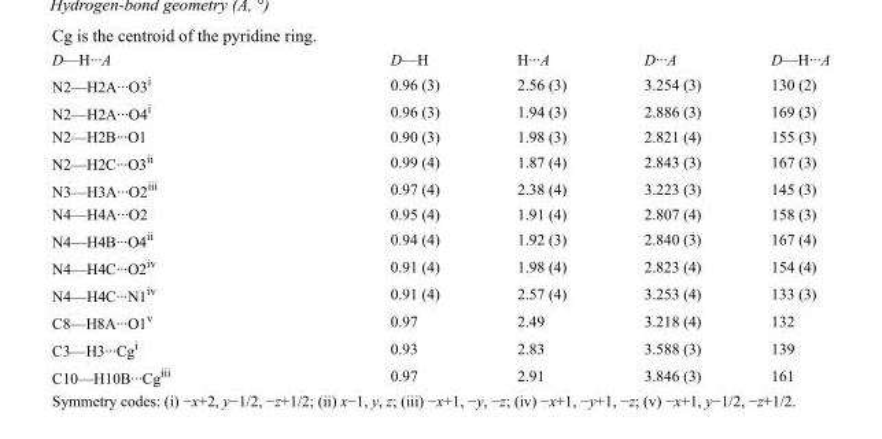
<table><tbody><tr><td>D—H···A</td><td>D—H</td><td>H···A</td><td>D···A</td><td>D—H···A</td></tr><tr><td>N2—H2A···O3<sup>i</sup></td><td>0.96 (3)</td><td>2.56 (3)</td><td>3.254 (3)</td><td>130 (2)</td></tr><tr><td>N2—H2A···O4<sup>i</sup></td><td>0.96 (3)</td><td>1.94 (3)</td><td>2.886 (3)</td><td>169 (3)</td></tr><tr><td>N2—H2B···O1</td><td>0.90 (3)</td><td>1.98 (3)</td><td>2.821 (4)</td><td>155 (3)</td></tr><tr><td>N2—H2C···O3<sup>ii</sup></td><td>0.99 (4)</td><td>1.87 (4)</td><td>2.843 (3)</td><td>167 (3)</td></tr><tr><td>N3—H3A···O2<sup>iii</sup></td><td>0.97 (4)</td><td>2.38 (4)</td><td>3.223 (3)</td><td>145 (3)</td></tr><tr><td>N4—H4A···O2</td><td>0.95 (4)</td><td>1.91 (4)</td><td>2.807 (4)</td><td>158 (3)</td></tr><tr><td>N4—H4B···O4<sup>ii</sup></td><td>0.94 (4)</td><td>1.92 (3)</td><td>2.840 (3)</td><td>167 (4)</td></tr><tr><td>N4—H4C···O2<sup>iv</sup></td><td>0.91 (4)</td><td>1.98 (4)</td><td>2.823 (4)</td><td>154 (4)</td></tr><tr><td>N4—H4C···N1<sup>iv</sup></td><td>0.91 (4)</td><td>2.57 (4)</td><td>3.253 (4)</td><td>133 (3)</td></tr><tr><td>C8—H8A···O1<sup>v</sup></td><td>0.97</td><td>2.49</td><td>3.218 (4)</td><td>132</td></tr><tr><td>C3—H3···Cg<sup>i</sup></td><td>0.93</td><td>2.83</td><td>3.588 (3)</td><td>139</td></tr><tr><td>C10—H10B···Cg<sup>iii</sup></td><td>0.97</td><td>2.91</td><td>3.846 (3)</td><td>161</td></tr></tbody></table>